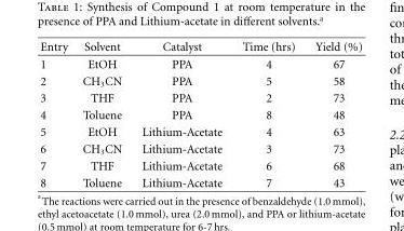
<table><thead><tr><td>Entry</td><td>Solvent</td><td>Catalyst</td><td>Time (hrs)</td><td>Yield (%)</td></tr></thead><tbody><tr><td>1</td><td>EtOH</td><td>PPA</td><td>4</td><td>67</td></tr><tr><td>2</td><td>CH<sub>3</sub>CN</td><td>PPA</td><td>5</td><td>58</td></tr><tr><td>3</td><td>THF</td><td>PPA</td><td>2</td><td>73</td></tr><tr><td>4</td><td>Toluene</td><td>PPA</td><td>8</td><td>48</td></tr><tr><td>5</td><td>EtOH</td><td>Lithium-Acetate</td><td>4</td><td>63</td></tr><tr><td>6</td><td>CH<sub>3</sub>CN</td><td>Lithium-Acetate</td><td>3</td><td>73</td></tr><tr><td>7</td><td>THF</td><td>Lithium-Acetate</td><td>6</td><td>68</td></tr><tr><td>8</td><td>Toluene</td><td>Lithium-Acetate</td><td>7</td><td>43</td></tr></tbody></table>